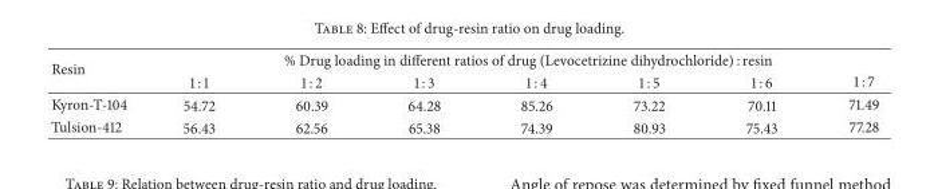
<table><thead><tr><td rowspan="2">Resin</td><td colspan="7">% Drug loading in different ratios of drug (Levocetrizine dihydrochloride) : resin</td></tr><tr><td>1 : 1</td><td>1 : 2</td><td>1 : 3</td><td>1 : 4</td><td>1 : 5</td><td>1 : 6</td><td>1 : 7</td></tr></thead><tbody><tr><td>Kyron-T-104</td><td>54.72</td><td>60.39</td><td>64.28</td><td>85.26</td><td>73.22</td><td>70.11</td><td>71.49</td></tr><tr><td>Tulsion-412</td><td>56.43</td><td>62.56</td><td>65.38</td><td>74.39</td><td>80.93</td><td>75.43</td><td>77.28</td></tr></tbody></table>